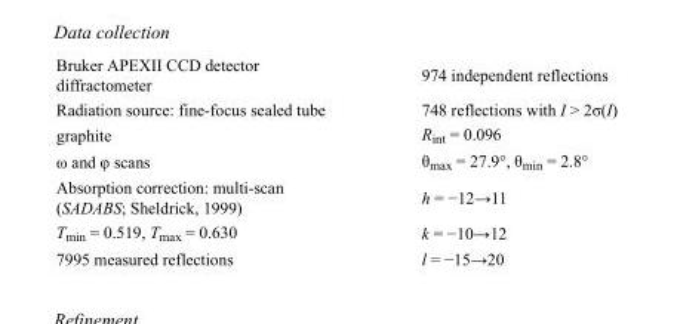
<table><tbody><tr><td>Bruker APEXII CCD detector diffractometer</td><td>974 independent reflections</td></tr><tr><td>Radiation source: fine-focus sealed tube</td><td>748 reflections with I &gt; 2σ(I)</td></tr><tr><td>graphite</td><td>R<sub>int</sub> = 0.096</td></tr><tr><td>ω and φ scans</td><td>θ<sub>max</sub> = 27.9°, θ<sub>min</sub> = 2.8°</td></tr><tr><td>Absorption correction: multi-scan (SADABS; Sheldrick, 1999)</td><td>h = −12→11</td></tr><tr><td>T<sub>min</sub> = 0.519, T<sub>max</sub> = 0.630</td><td>k = −10→12</td></tr><tr><td>7995 measured reflections</td><td>l = −15→20</td></tr></tbody></table>